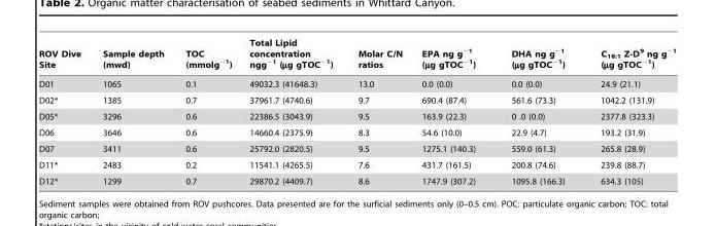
<table><thead><tr><td>ROV Dive Site</td><td>Sample depth (mwd)</td><td>TOC (mmolg<sup>−1</sup>)</td><td>Total Lipid concentration ngg<sup>−1</sup> (µg gTOC<sup>−1</sup>)</td><td>Molar C/N ratios</td><td>EPA ng g<sup>−1</sup> (µg gTOC<sup>−1</sup>)</td><td>DHA ng g<sup>−1</sup> (µg gTOC<sup>−1</sup>)</td><td>C18:1 Z-D9 ng g−1 (µg gTOC−1)</td></tr></thead><tbody><tr><td>D01</td><td>1065</td><td>0.1</td><td>49032.3 (41648.3)</td><td>13.0</td><td>0.0 (0.0)</td><td>0.0 (0.0)</td><td>24.9 (21.1)</td></tr><tr><td>D02*</td><td>1385</td><td>0.7</td><td>37961.7 (4740.6)</td><td>9.7</td><td>690.4 (87.4)</td><td>561.6 (73.3)</td><td>1042.2 (131.9)</td></tr><tr><td>D05*</td><td>3296</td><td>0.6</td><td>22386.5 (3043.9)</td><td>9.5</td><td>163.9 (22.3)</td><td>0 .0 (0.0)</td><td>2377.8 (323.3)</td></tr><tr><td>D06</td><td>3646</td><td>0.6</td><td>14660.4 (2375.9)</td><td>8.3</td><td>54.6 (10.0)</td><td>22.9 (4.7)</td><td>193.2 (31.9)</td></tr><tr><td>D07</td><td>3411</td><td>0.6</td><td>25792.0 (2820.5)</td><td>9.5</td><td>1275.1 (140.3)</td><td>559.0 (61.3)</td><td>265.8 (28.9)</td></tr><tr><td>D11*</td><td>2483</td><td>0.2</td><td>11541.1 (4265.5)</td><td>7.6</td><td>431.7 (161.5)</td><td>200.8 (74.6)</td><td>239.8 (88.7)</td></tr><tr><td>D12*</td><td>1299</td><td>0.7</td><td>29870.2 (4409.7)</td><td>8.6</td><td>1747.9 (307.2)</td><td>1095.8 (166.3)</td><td>634.3 (105)</td></tr></tbody></table>